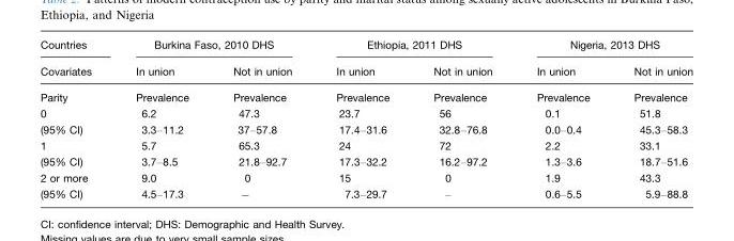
<table><thead><tr><td rowspan="2">Countries Covariates</td><td colspan="2">Burkina Faso, 2010 DHS</td><td colspan="2">Ethiopia, 2011 DHS</td><td colspan="2">Nigeria, 2013 DHS</td></tr><tr><td>In union</td><td>Not in union</td><td>In union</td><td>Not in union</td><td>In union</td><td>Not in union</td></tr></thead><tbody><tr><td>Parity</td><td>Prevalence</td><td>Prevalence</td><td>Prevalence</td><td>Prevalence</td><td>Prevalence</td><td>Prevalence</td></tr><tr><td>0</td><td>6.2</td><td>47.3</td><td>23.7</td><td>56</td><td>0.1</td><td>51.8</td></tr><tr><td>(95% CI)</td><td>3.3–11.2</td><td>37–57.8</td><td>17.4–31.6</td><td>32.8–76.8</td><td>0.0–0.4</td><td>45.3–58.3</td></tr><tr><td>1</td><td>5.7</td><td>65.3</td><td>24</td><td>72</td><td>2.2</td><td>33.1</td></tr><tr><td>(95% CI)</td><td>3.7–8.5</td><td>21.8–92.7</td><td>17.3–32.2</td><td>16.2–97.2</td><td>1.3–3.6</td><td>18.7–51.6</td></tr><tr><td>2 or more</td><td>9.0</td><td>0</td><td>15</td><td>0</td><td>1.9</td><td>43.3</td></tr><tr><td>(95% CI)</td><td>4.5–17.3</td><td>−</td><td>7.3–29.7</td><td>–</td><td>0.6–5.5</td><td>5.9–88.8</td></tr></tbody></table>